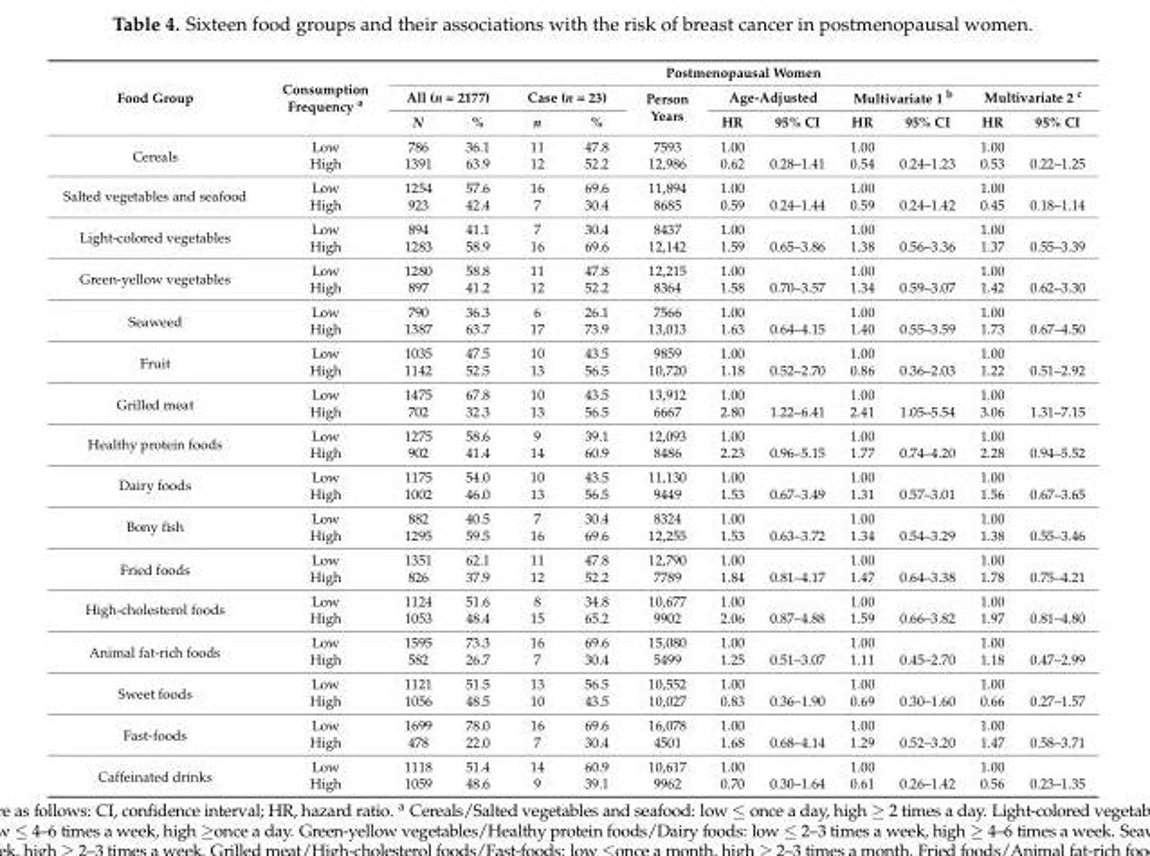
<table><thead><tr><td rowspan="3">Food Group</td><td rowspan="3">Consumption Frequency <sup>a</sup></td><td colspan="11">Postmenopausal Women</td></tr><tr><td colspan="2">All (n = 2177)</td><td colspan="2">Case (n = 23)</td><td rowspan="2">Person Years</td><td colspan="2">Age-Adjusted</td><td colspan="2">Multivariate 1 <sup>b</sup></td><td colspan="2">Multivariate 2 <sup>c</sup></td></tr><tr><td>N</td><td>%</td><td>n</td><td>%</td><td>HR</td><td>95% CI</td><td>HR</td><td>95% CI</td><td>HR</td><td>95% CI</td></tr></thead><tbody><tr><td rowspan="2">Cereals</td><td>Low</td><td>786</td><td>36.1</td><td>11</td><td>47.8</td><td>7593</td><td>1.00</td><td></td><td>1.00</td><td></td><td>1.00</td><td></td></tr><tr><td>High</td><td>1391</td><td>63.9</td><td>12</td><td>52.2</td><td>12,986</td><td>0.62</td><td>0.28–1.41</td><td>0.54</td><td>0.24–1.23</td><td>0.53</td><td>0.22–1.25</td></tr><tr><td rowspan="2">Salted vegetables and seafood</td><td>Low</td><td>1254</td><td>57.6</td><td>16</td><td>69.6</td><td>11,894</td><td>1.00</td><td></td><td>1.00</td><td></td><td>1.00</td><td></td></tr><tr><td>High</td><td>923</td><td>42.4</td><td>7</td><td>30.4</td><td>8685</td><td>0.59</td><td>0.24–1.44</td><td>0.59</td><td>0.24–1.42</td><td>0.45</td><td>0.18–1.14</td></tr><tr><td rowspan="2">Light-colored vegetables</td><td>Low</td><td>894</td><td>41.1</td><td>7</td><td>30.4</td><td>8437</td><td>1.00</td><td></td><td>1.00</td><td></td><td>1.00</td><td></td></tr><tr><td>High</td><td>1283</td><td>58.9</td><td>16</td><td>69.6</td><td>12,142</td><td>1.59</td><td>0.65–3.86</td><td>1.38</td><td>0.56–3.36</td><td>1.37</td><td>0.55–3.39</td></tr><tr><td rowspan="2">Green-yellow vegetables</td><td>Low</td><td>1280</td><td>58.8</td><td>11</td><td>47.8</td><td>12,215</td><td>1.00</td><td></td><td>1.00</td><td></td><td>1.00</td><td></td></tr><tr><td>High</td><td>897</td><td>41.2</td><td>12</td><td>52.2</td><td>8364</td><td>1.58</td><td>0.70–3.57</td><td>1.34</td><td>0.59–3.07</td><td>1.42</td><td>0.62–3.30</td></tr><tr><td rowspan="2">Seaweed</td><td>Low</td><td>790</td><td>36.3</td><td>6</td><td>26.1</td><td>7566</td><td>1.00</td><td></td><td>1.00</td><td></td><td>1.00</td><td></td></tr><tr><td>High</td><td>1387</td><td>63.7</td><td>17</td><td>73.9</td><td>13,013</td><td>1.63</td><td>0.64–4.15</td><td>1.40</td><td>0.55–3.59</td><td>1.73</td><td>0.67–4.50</td></tr><tr><td rowspan="2">Fruit</td><td>Low</td><td>1035</td><td>47.5</td><td>10</td><td>43.5</td><td>9859</td><td>1.00</td><td></td><td>1.00</td><td></td><td>1.00</td><td></td></tr><tr><td>High</td><td>1142</td><td>52.5</td><td>13</td><td>56.5</td><td>10,720</td><td>1.18</td><td>0.52–2.70</td><td>0.86</td><td>0.36–2.03</td><td>1.22</td><td>0.51–2.92</td></tr><tr><td rowspan="2">Grilled meat</td><td>Low</td><td>1475</td><td>67.8</td><td>10</td><td>43.5</td><td>13,912</td><td>1.00</td><td></td><td>1.00</td><td></td><td>1.00</td><td></td></tr><tr><td>High</td><td>702</td><td>32.3</td><td>13</td><td>56.5</td><td>6667</td><td>2.80</td><td>1.22–6.41</td><td>2.41</td><td>1.05–5.54</td><td>3.06</td><td>1.31–7.15</td></tr><tr><td rowspan="2">Healthy protein foods</td><td>Low</td><td>1275</td><td>58.6</td><td>9</td><td>39.1</td><td>12,093</td><td>1.00</td><td></td><td>1.00</td><td></td><td>1.00</td><td></td></tr><tr><td>High</td><td>902</td><td>41.4</td><td>14</td><td>60.9</td><td>8486</td><td>2.23</td><td>0.96–5.15</td><td>1.77</td><td>0.74–4.20</td><td>2.28</td><td>0.94–5.52</td></tr><tr><td rowspan="2">Dairy foods</td><td>Low</td><td>1175</td><td>54.0</td><td>10</td><td>43.5</td><td>11,130</td><td>1.00</td><td></td><td>1.00</td><td></td><td>1.00</td><td></td></tr><tr><td>High</td><td>1002</td><td>46.0</td><td>13</td><td>56.5</td><td>9449</td><td>1.53</td><td>0.67–3.49</td><td>1.31</td><td>0.57–3.01</td><td>1.56</td><td>0.67–3.65</td></tr><tr><td rowspan="2">Bony fish</td><td>Low</td><td>882</td><td>40.5</td><td>7</td><td>30.4</td><td>8324</td><td>1.00</td><td></td><td>1.00</td><td></td><td>1.00</td><td></td></tr><tr><td>High</td><td>1295</td><td>59.5</td><td>16</td><td>69.6</td><td>12,255</td><td>1.53</td><td>0.63–3.72</td><td>1.34</td><td>0.54–3.29</td><td>1.38</td><td>0.55–3.46</td></tr><tr><td rowspan="2">Fried foods</td><td>Low</td><td>1351</td><td>62.1</td><td>11</td><td>47.8</td><td>12,790</td><td>1.00</td><td></td><td>1.00</td><td></td><td>1.00</td><td></td></tr><tr><td>High</td><td>826</td><td>37.9</td><td>12</td><td>52.2</td><td>7789</td><td>1.84</td><td>0.81–4.17</td><td>1.47</td><td>0.64–3.38</td><td>1.78</td><td>0.75–4.21</td></tr><tr><td rowspan="2">High-cholesterol foods</td><td>Low</td><td>1124</td><td>51.6</td><td>8</td><td>34.8</td><td>10,677</td><td>1.00</td><td></td><td>1.00</td><td></td><td>1.00</td><td></td></tr><tr><td>High</td><td>1053</td><td>48.4</td><td>15</td><td>65.2</td><td>9902</td><td>2.06</td><td>0.87–4.88</td><td>1.59</td><td>0.66–3.82</td><td>1.97</td><td>0.81–4.80</td></tr><tr><td rowspan="2">Animal fat-rich foods</td><td>Low</td><td>1595</td><td>73.3</td><td>16</td><td>69.6</td><td>15,080</td><td>1.00</td><td></td><td>1.00</td><td></td><td>1.00</td><td></td></tr><tr><td>High</td><td>582</td><td>26.7</td><td>7</td><td>30.4</td><td>5499</td><td>1.25</td><td>0.51–3.07</td><td>1.11</td><td>0.45–2.70</td><td>1.18</td><td>0.47–2.99</td></tr><tr><td rowspan="2">Sweet foods</td><td>Low</td><td>1121</td><td>51.5</td><td>13</td><td>56.5</td><td>10,552</td><td>1.00</td><td></td><td>1.00</td><td></td><td>1.00</td><td></td></tr><tr><td>High</td><td>1056</td><td>48.5</td><td>10</td><td>43.5</td><td>10,027</td><td>0.83</td><td>0.36–1.90</td><td>0.69</td><td>0.30–1.60</td><td>0.66</td><td>0.27–1.57</td></tr><tr><td rowspan="2">Fast-foods</td><td>Low</td><td>1699</td><td>78.0</td><td>16</td><td>69.6</td><td>16,078</td><td>1.00</td><td></td><td>1.00</td><td></td><td>1.00</td><td></td></tr><tr><td>High</td><td>478</td><td>22.0</td><td>7</td><td>30.4</td><td>4501</td><td>1.68</td><td>0.68–4.14</td><td>1.29</td><td>0.52–3.20</td><td>1.47</td><td>0.58–3.71</td></tr><tr><td rowspan="2">Caffeinated drinks</td><td>Low</td><td>1118</td><td>51.4</td><td>14</td><td>60.9</td><td>10,617</td><td>1.00</td><td></td><td>1.00</td><td></td><td>1.00</td><td></td></tr><tr><td>High</td><td>1059</td><td>48.6</td><td>9</td><td>39.1</td><td>9962</td><td>0.70</td><td>0.30–1.64</td><td>0.61</td><td>0.26–1.42</td><td>0.56</td><td>0.23–1.35</td></tr></tbody></table>